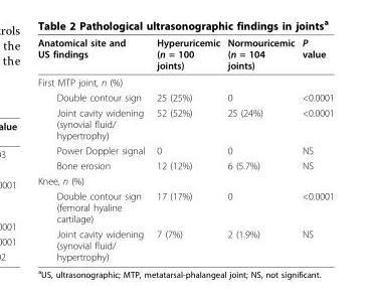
<table><thead><tr><td>Anatomical site and US findings</td><td>Hyperuricemic (n = 100 joints)</td><td>Normouricemic (n = 104 joints)</td><td>P value</td></tr></thead><tbody><tr><td colspan="4">First MTP joint, n (%)</td></tr><tr><td>Double contour sign</td><td>25 (25%)</td><td>0</td><td>&lt;0.0001</td></tr><tr><td>Joint cavity widening (synovial fluid/ hypertrophy)</td><td>52 (52%)</td><td>25 (24%)</td><td>&lt;0.0001</td></tr><tr><td>Power Doppler signal</td><td>0</td><td>0</td><td>NS</td></tr><tr><td>Bone erosion</td><td>12 (12%)</td><td>6 (5.7%)</td><td>NS</td></tr><tr><td colspan="4">Knee, n (%)</td></tr><tr><td>Double contour sign (femoral hyaline cartilage)</td><td>17 (17%)</td><td>0</td><td>&lt;0.0001</td></tr><tr><td>Joint cavity widening (synovial fluid/ hypertrophy)</td><td>7 (7%)</td><td>2 (1.9%)</td><td>NS</td></tr></tbody></table>